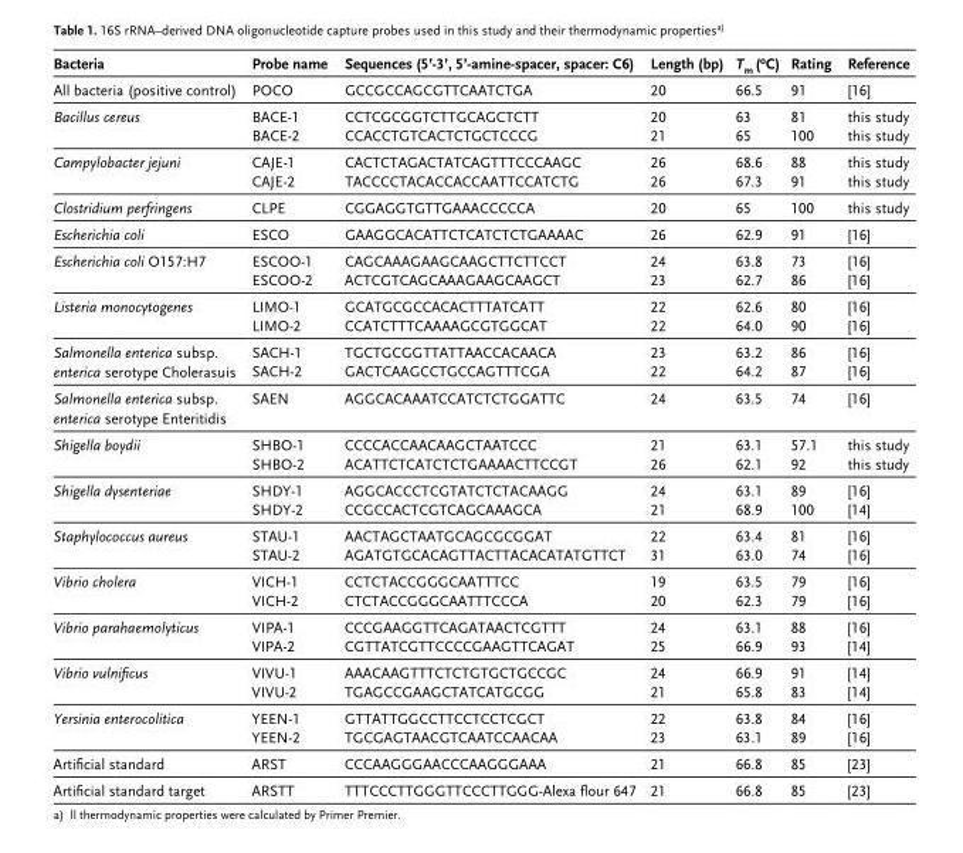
<table><thead><tr><td>Bacteria</td><td>Probe name</td><td>Sequences (5’-3’, 5’-amine-spacer, spacer: C6)</td><td>Length (bp)</td><td>T<sub>m</sub> (°C)</td><td>Rating</td><td>Reference</td></tr></thead><tbody><tr><td>All bacteria (positive control)</td><td>POCO</td><td>GCCGCCAGCGTTCAATCTGA</td><td>20</td><td>66.5</td><td>91</td><td>[16]</td></tr><tr><td rowspan="2">Bacillus cereus</td><td>BACE-1</td><td>CCTCGCGGTCTTGCAGCTCTT</td><td>20</td><td>63</td><td>81</td><td>this study</td></tr><tr><td>BACE-2</td><td>CCACCTGTCACTCTGCTCCCG</td><td>21</td><td>65</td><td>100</td><td>this study</td></tr><tr><td rowspan="2">Campylobacter jejuni</td><td>CAJE-1</td><td>CACTCTAGACTATCAGTTTCCCAAGC</td><td>26</td><td>68.6</td><td>88</td><td>this study</td></tr><tr><td>CAJE-2</td><td>TACCCCTACACCACCAATTCCATCTG</td><td>26</td><td>67.3</td><td>91</td><td>this study</td></tr><tr><td>Clostridium perfringens</td><td>CLPE</td><td>CGGAGGTGTTGAAACCCCCA</td><td>20</td><td>65</td><td>100</td><td>this study</td></tr><tr><td>Escherichia coli</td><td>ESCO</td><td>GAAGGCACATTCTCATCTCTGAAAAC</td><td>26</td><td>62.9</td><td>91</td><td>[16]</td></tr><tr><td rowspan="2">Escherichia coli O157:H7</td><td>ESCOO-1</td><td>CAGCAAAGAAGCAAGCTTCTTCCT</td><td>24</td><td>63.8</td><td>73</td><td>[16]</td></tr><tr><td>ESCOO-2</td><td>ACTCGTCAGCAAAGAAGCAAGCT</td><td>23</td><td>62.7</td><td>86</td><td>[16]</td></tr><tr><td rowspan="2">Listeria monocytogenes</td><td>LIMO-1</td><td>GCATGCGCCACACTTTATCATT</td><td>22</td><td>62.6</td><td>80</td><td>[16]</td></tr><tr><td>LIMO-2</td><td>CCATCTTTCAAAAGCGTGGCAT</td><td>22</td><td>64.0</td><td>90</td><td>[16]</td></tr><tr><td rowspan="2">Salmonella enterica subsp. enterica serotype Cholerasuis</td><td>SACH-1</td><td>TGCTGCGGTTATTAACCACAACA</td><td>23</td><td>63.2</td><td>86</td><td>[16]</td></tr><tr><td>SACH-2</td><td>GACTCAAGCCTGCCAGTTTCGA</td><td>22</td><td>64.2</td><td>87</td><td>[16]</td></tr><tr><td>Salmonella enterica subsp. enterica serotype Enteritidis</td><td>SAEN</td><td>AGGCACAAATCCATCTCTGGATTC</td><td>24</td><td>63.5</td><td>74</td><td>[16]</td></tr><tr><td rowspan="2">Shigella boydii</td><td>SHBO-1</td><td>CCCCACCAACAAGCTAATCCC</td><td>21</td><td>63.1</td><td>57.1</td><td>this study</td></tr><tr><td>SHBO-2</td><td>ACATTCTCATCTCTGAAAACTTCCGT</td><td>26</td><td>62.1</td><td>92</td><td>this study</td></tr><tr><td rowspan="2">Shigella dysenteriae</td><td>SHDY-1</td><td>AGGCACCCTCGTATCTCTACAAGG</td><td>24</td><td>63.1</td><td>89</td><td>[16]</td></tr><tr><td>SHDY-2</td><td>CCGCCACTCGTCAGCAAAGCA</td><td>21</td><td>68.9</td><td>100</td><td>[14]</td></tr><tr><td rowspan="2">Staphylococcus aureus</td><td>STAU-1</td><td>AACTAGCTAATGCAGCGCGGAT</td><td>22</td><td>63.4</td><td>81</td><td>[16]</td></tr><tr><td>STAU-2</td><td>AGATGTGCACAGTTACTTACACATATGTTCT</td><td>31</td><td>63.0</td><td>74</td><td>[16]</td></tr><tr><td rowspan="2">Vibrio cholera</td><td>VICH-1</td><td>CCTCTACCGGGCAATTTCC</td><td>19</td><td>63.5</td><td>79</td><td>[16]</td></tr><tr><td>VICH-2</td><td>CTCTACCGGGCAATTTCCCA</td><td>20</td><td>62.3</td><td>79</td><td>[16]</td></tr><tr><td rowspan="2">Vibrio parahaemolyticus</td><td>VIPA-1</td><td>CCCGAAGGTTCAGATAACTCGTTT</td><td>24</td><td>63.1</td><td>88</td><td>[16]</td></tr><tr><td>VIPA-2</td><td>CGTTATCGTTCCCCGAAGTTCAGAT</td><td>25</td><td>66.9</td><td>93</td><td>[14]</td></tr><tr><td rowspan="2">Vibrio vulnificus</td><td>VIVU-1</td><td>AAACAAGTTTCTCTGTGCTGCCGC</td><td>24</td><td>66.9</td><td>91</td><td>[14]</td></tr><tr><td>VIVU-2</td><td>TGAGCCGAAGCTATCATGCGG</td><td>21</td><td>65.8</td><td>83</td><td>[14]</td></tr><tr><td rowspan="2">Yersinia enterocolitica</td><td>YEEN-1</td><td>GTTATTGGCCTTCCTCCTCGCT</td><td>22</td><td>63.8</td><td>84</td><td>[16]</td></tr><tr><td>YEEN-2</td><td>TGCGAGTAACGTCAATCCAACAA</td><td>23</td><td>63.1</td><td>89</td><td>[16]</td></tr><tr><td>Artificial standard</td><td>ARST</td><td>CCCAAGGGAACCCAAGGGAAA</td><td>21</td><td>66.8</td><td>85</td><td>[23]</td></tr><tr><td>Artificial standard target</td><td>ARSTT</td><td>TTTCCCTTGGGTTCCCTTGGG-Alexa flour 647</td><td>21</td><td>66.8</td><td>85</td><td>[23]</td></tr></tbody></table>